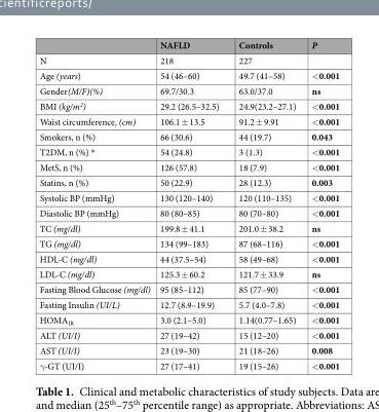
<table><thead><tr><td></td><td>NAFLD</td><td>Controls</td><td>P</td></tr></thead><tbody><tr><td>N</td><td>218</td><td>227</td><td></td></tr><tr><td>Age (years)</td><td>54 (46–60)</td><td>49.7 (41–58)</td><td>&lt;0.001</td></tr><tr><td>Gender(M/F)(%)</td><td>69.7/30.3</td><td>63.0/37.0</td><td>ns</td></tr><tr><td>BMI (kg/m<sup>2</sup>)</td><td>29.2 (26.5–32.5)</td><td>24.9(23.2–27.1)</td><td>&lt;0.001</td></tr><tr><td>Waist circumference, (cm)</td><td>106.1 ± 13.5</td><td>91.2 ± 9.91</td><td>&lt;0.001</td></tr><tr><td>Smokers, n (%)</td><td>66 (30.6)</td><td>44 (19.7)</td><td>0.043</td></tr><tr><td>T2DM, n (%) *</td><td>54 (24.8)</td><td>3 (1.3)</td><td>&lt;0.001</td></tr><tr><td>MetS, n (%)</td><td>126 (57.8)</td><td>18 (7.9)</td><td>&lt;0.001</td></tr><tr><td>Statins, n (%)</td><td>50 (22.9)</td><td>28 (12.3)</td><td>0.003</td></tr><tr><td>Systolic BP (mmHg)</td><td>130 (120–140)</td><td>120 (110–135)</td><td>&lt;0.001</td></tr><tr><td>Diastolic BP (mmHg)</td><td>80 (80–85)</td><td>80 (70–80)</td><td>&lt;0.001</td></tr><tr><td>TC (mg/dl)</td><td>199.8 ± 41.1</td><td>201.0 ± 38.2</td><td>ns</td></tr><tr><td>TG (mg/dl)</td><td>134 (99–183)</td><td>87 (68–116)</td><td>&lt;0.001</td></tr><tr><td>HDL-C (mg/dl)</td><td>44 (37.5–54)</td><td>58 (49–68)</td><td>&lt;0.001</td></tr><tr><td>LDL-C (mg/dl)</td><td>125.3 ± 60.2</td><td>121.7 ± 33.9</td><td>ns</td></tr><tr><td>Fasting Blood Glucose (mg/dl)</td><td>95 (85–112)</td><td>85 (77–90)</td><td>&lt;0.001</td></tr><tr><td>Fasting Insulin (UI/L)</td><td>12.7 (8.9–19.9)</td><td>5.7 (4.0–7.8)</td><td>&lt;0.001</td></tr><tr><td>HOMA<sub>IR</sub></td><td>3.0 (2.1–5.0)</td><td>1.14(0.77–1.65)</td><td>&lt;0.001</td></tr><tr><td>ALT (UI/I)</td><td>27 (19–42)</td><td>15 (12–20)</td><td>&lt;0.001</td></tr><tr><td>AST (UI/I)</td><td>23 (19–30)</td><td>21 (18–26)</td><td>0.008</td></tr><tr><td>γ-GT (UI/I)</td><td>27 (17–41)</td><td>19 (15–26)</td><td>&lt;0.001</td></tr></tbody></table>